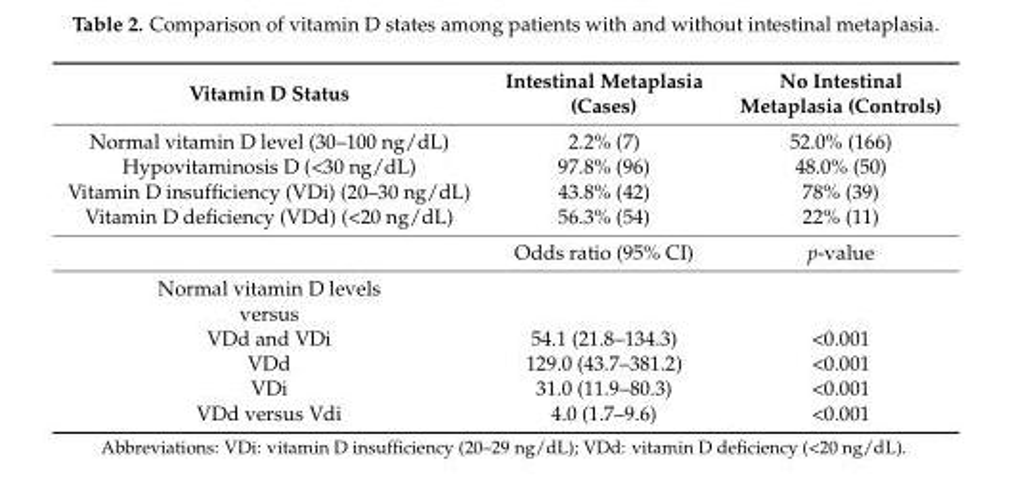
<table><thead><tr><td>Vitamin D Status</td><td>Intestinal Metaplasia (Cases)</td><td>No Intestinal Metaplasia (Controls)</td></tr></thead><tbody><tr><td>Normal vitamin D level (30–100 ng/dL)</td><td>2.2% (7)</td><td>52.0% (166)</td></tr><tr><td>Hypovitaminosis D (&lt;30 ng/dL)</td><td>97.8% (96)</td><td>48.0% (50)</td></tr><tr><td>Vitamin D insufficiency (VDi) (20–30 ng/dL)</td><td>43.8% (42)</td><td>78% (39)</td></tr><tr><td rowspan="2">Vitamin D deficiency (VDd) (&lt;20 ng/dL)</td><td>56.3% (54)</td><td>22% (11)</td></tr><tr><td>Odds ratio (95% CI)</td><td>p-value</td></tr><tr><td colspan="3">Normal vitamin D levels</td></tr><tr><td colspan="3">versus</td></tr><tr><td>VDd and VDi</td><td>54.1 (21.8–134.3)</td><td>&lt;0.001</td></tr><tr><td>VDd</td><td>129.0 (43.7–381.2)</td><td>&lt;0.001</td></tr><tr><td>VDi</td><td>31.0 (11.9–80.3)</td><td>&lt;0.001</td></tr><tr><td>VDd versus Vdi</td><td>4.0 (1.7–9.6)</td><td>&lt;0.001</td></tr></tbody></table>